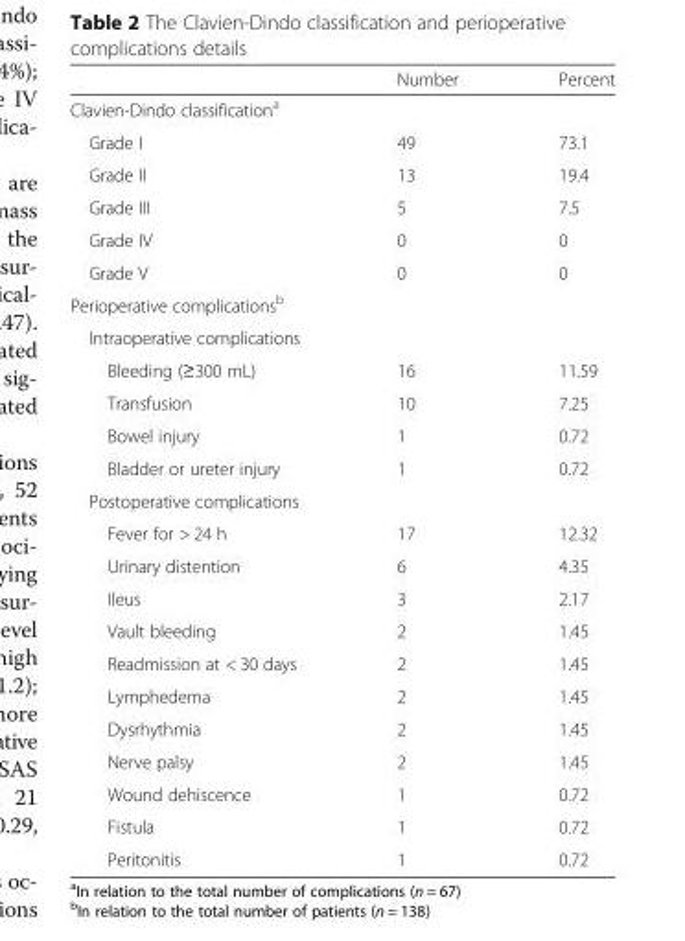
<table><thead><tr><td></td><td>Number</td><td>Percent</td></tr></thead><tbody><tr><td colspan="3">Clavien-Dindo classification<sup>a</sup></td></tr><tr><td>Grade I</td><td>49</td><td>73.1</td></tr><tr><td>Grade II</td><td>13</td><td>19.4</td></tr><tr><td>Grade III</td><td>5</td><td>7.5</td></tr><tr><td>Grade IV</td><td>0</td><td>0</td></tr><tr><td>Grade V</td><td>0</td><td>0</td></tr><tr><td colspan="3">Perioperative complications<sup>b</sup></td></tr><tr><td colspan="3">Intraoperative complications</td></tr><tr><td>Bleeding (≥300 mL)</td><td>16</td><td>11.59</td></tr><tr><td>Transfusion</td><td>10</td><td>7.25</td></tr><tr><td>Bowel injury</td><td>1</td><td>0.72</td></tr><tr><td>Bladder or ureter injury</td><td>1</td><td>0.72</td></tr><tr><td colspan="3">Postoperative complications</td></tr><tr><td>Fever for &gt; 24 h</td><td>17</td><td>12.32</td></tr><tr><td>Urinary distention</td><td>6</td><td>4.35</td></tr><tr><td>Ileus</td><td>3</td><td>2.17</td></tr><tr><td>Vault bleeding</td><td>2</td><td>1.45</td></tr><tr><td>Readmission at &lt; 30 days</td><td>2</td><td>1.45</td></tr><tr><td>Lymphedema</td><td>2</td><td>1.45</td></tr><tr><td>Dysrhythmia</td><td>2</td><td>1.45</td></tr><tr><td>Nerve palsy</td><td>2</td><td>1.45</td></tr><tr><td>Wound dehiscence</td><td>1</td><td>0.72</td></tr><tr><td>Fistula</td><td>1</td><td>0.72</td></tr><tr><td>Peritonitis</td><td>1</td><td>0.72</td></tr></tbody></table>